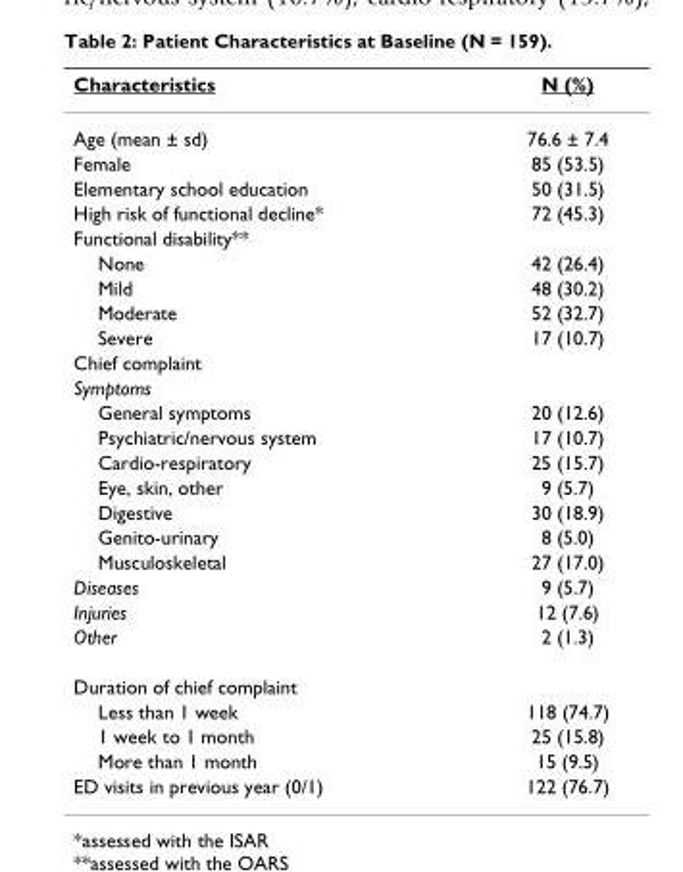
<table><thead><tr><td>Characteristics</td><td>N (%)</td></tr></thead><tbody><tr><td>Age (mean ± sd)</td><td>76.6 ± 7.4</td></tr><tr><td>Female</td><td>85 (53.5)</td></tr><tr><td>Elementary school education</td><td>50 (31.5)</td></tr><tr><td>High risk of functional decline*</td><td>72 (45.3)</td></tr><tr><td colspan="2">Functional disability**</td></tr><tr><td>None</td><td>42 (26.4)</td></tr><tr><td>Mild</td><td>48 (30.2)</td></tr><tr><td>Moderate</td><td>52 (32.7)</td></tr><tr><td>Severe</td><td>17 (10.7)</td></tr><tr><td colspan="2">Chief complaint</td></tr><tr><td colspan="2">Symptoms</td></tr><tr><td>General symptoms</td><td>20 (12.6)</td></tr><tr><td>Psychiatric/nervous system</td><td>17 (10.7)</td></tr><tr><td>Cardio-respiratory</td><td>25 (15.7)</td></tr><tr><td>Eye, skin, other</td><td>9 (5.7)</td></tr><tr><td>Digestive</td><td>30 (18.9)</td></tr><tr><td>Genito-urinary</td><td>8 (5.0)</td></tr><tr><td>Musculoskeletal</td><td>27 (17.0)</td></tr><tr><td>Diseases</td><td>9 (5.7)</td></tr><tr><td>Injuries</td><td>12 (7.6)</td></tr><tr><td>Other</td><td>2 (1.3)</td></tr><tr><td colspan="2">Duration of chief complaint</td></tr><tr><td>Less than 1 week</td><td>118 (74.7)</td></tr><tr><td>1 week to 1 month</td><td>25 (15.8)</td></tr><tr><td>More than 1 month</td><td>15 (9.5)</td></tr><tr><td>ED visits in previous year (0/1)</td><td>122 (76.7)</td></tr></tbody></table>